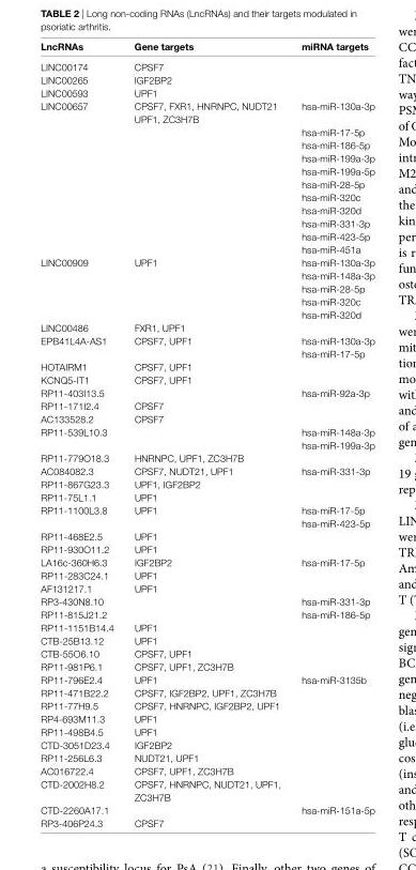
<table><thead><tr><td>lncrnas</td><td>gene targets</td><td>mirna targets</td></tr></thead><tbody><tr><td>LINC00174</td><td>CPSF7</td><td></td></tr><tr><td>LINC00265</td><td>IGF2BP2</td><td></td></tr><tr><td>LINC00593</td><td>UPF1</td><td></td></tr><tr><td rowspan="11">LINC00657</td><td>CPSF7, FXR1, HNRNPC, NUDT21 UPF1, ZC3H7B</td><td>hsa-miR-130a-3p</td></tr><tr><td></td><td>hsa-miR-17-5p</td></tr><tr><td></td><td>hsa-miR-186-5p</td></tr><tr><td></td><td>hsa-miR-199a-3p</td></tr><tr><td></td><td>hsa-miR-199a-5p</td></tr><tr><td></td><td>hsa-miR-28-5p</td></tr><tr><td></td><td>hsa-miR-320c</td></tr><tr><td></td><td>hsa-miR-320d</td></tr><tr><td></td><td>hsa-miR-331-3p</td></tr><tr><td></td><td>hsa-miR-423-5p</td></tr><tr><td></td><td>hsa-miR-451a</td></tr><tr><td rowspan="5">LINC00909</td><td>UPF1</td><td>hsa-miR-130a-3p</td></tr><tr><td></td><td>hsa-miR-148a-3p</td></tr><tr><td></td><td>hsa-miR-28-5p</td></tr><tr><td></td><td>hsa-miR-320c</td></tr><tr><td></td><td>hsa-miR-320d</td></tr><tr><td>LINC00486</td><td>FXR1, UPF1</td><td></td></tr><tr><td rowspan="2">EPB41L4A-AS1</td><td>CPSF7, UPF1</td><td>hsa-miR-130a-3p</td></tr><tr><td></td><td>hsa-miR-17-5p</td></tr><tr><td>HOTAIRM1</td><td>CPSF7, UPF1</td><td></td></tr><tr><td>KCNQ5-IT1</td><td>CPSF7, UPF1</td><td></td></tr><tr><td>RP11-403I13.5</td><td></td><td>hsa-miR-92a-3p</td></tr><tr><td>RP11-171I2.4</td><td>CPSF7</td><td></td></tr><tr><td>AC133528.2</td><td>CPSF7</td><td></td></tr><tr><td rowspan="2">RP11-539L10.3</td><td></td><td>hsa-miR-148a-3p</td></tr><tr><td></td><td>hsa-miR-199a-3p</td></tr><tr><td>RP11-779O18.3</td><td>HNRNPC, UPF1, ZC3H7B</td><td></td></tr><tr><td>AC084082.3</td><td>CPSF7, NUDT21, UPF1</td><td>hsa-miR-331-3p</td></tr><tr><td>RP11-867G23.3</td><td>UPF1, IGF2BP2</td><td></td></tr><tr><td>RP11-75L1.1</td><td>UPF1</td><td></td></tr><tr><td rowspan="2">RP11-1100L3.8</td><td>UPF1</td><td>hsa-miR-17-5p</td></tr><tr><td></td><td>hsa-miR-423-5p</td></tr><tr><td>RP11-468E2.5</td><td>UPF1</td><td></td></tr><tr><td>RP11-930O11.2</td><td>UPF1</td><td></td></tr><tr><td>LA16c-360H6.3</td><td>IGF2BP2</td><td>hsa-miR-17-5p</td></tr><tr><td>RP11-283C24.1</td><td>UPF1</td><td></td></tr><tr><td>AF131217.1</td><td>UPF1</td><td></td></tr><tr><td>RP3-430N8.10</td><td></td><td>hsa-miR-331-3p</td></tr><tr><td>RP11-815J21.2</td><td></td><td>hsa-miR-186-5p</td></tr><tr><td>RP11-1151B14.4</td><td>UPF1</td><td></td></tr><tr><td>CTB-25B13.12</td><td>UPF1</td><td></td></tr><tr><td>CTB-55O6.10</td><td>CPSF7, UPF1</td><td></td></tr><tr><td>RP11-981P6.1</td><td>CPSF7, UPF1, ZC3H7B</td><td></td></tr><tr><td>RP11-796E2.4</td><td>UPF1</td><td>hsa-miR-3135b</td></tr><tr><td>RP11-471B22.2</td><td>CPSF7, IGF2BP2, UPF1, ZC3H7B</td><td></td></tr><tr><td>RP11-77H9.5</td><td>CPSF7, HNRNPC, IGF2BP2, UPF1</td><td></td></tr><tr><td>RP4-693M11.3</td><td>UPF1</td><td></td></tr><tr><td>RP11-498B4.5</td><td>UPF1</td><td></td></tr><tr><td>CTD-3051D23.4</td><td>IGF2BP2</td><td></td></tr><tr><td>RP11-256L6.3</td><td>NUDT21, UPF1</td><td></td></tr><tr><td>AC016722.4</td><td>CPSF7, UPF1, ZC3H7B</td><td></td></tr><tr><td>CTD-2002H8.2</td><td>CPSF7, HNRNPC, NUDT21, UPF1, ZC3H7B</td><td></td></tr><tr><td>CTD-2260A17.1</td><td></td><td>hsa-miR-151a-5p</td></tr><tr><td>RP3-406P24.3</td><td>CPSF7</td><td></td></tr></tbody></table>